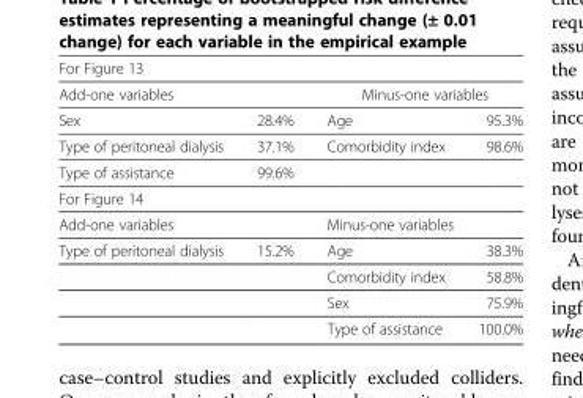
<table><tbody><tr><td colspan="4">For Figure 13</td></tr><tr><td colspan="2">Add-one variables</td><td colspan="2">Minus-one variables</td></tr><tr><td>Sex</td><td>28.4%</td><td>Age</td><td>95.3%</td></tr><tr><td>Type of peritoneal dialysis</td><td>37.1%</td><td>Comorbidity index</td><td>98.6%</td></tr><tr><td>Type of assistance</td><td>99.6%</td><td></td><td></td></tr><tr><td colspan="4">For Figure 14</td></tr><tr><td colspan="2">Add-one variables</td><td colspan="2">Minus-one variables</td></tr><tr><td rowspan="4">Type of peritoneal dialysis</td><td>15.2%</td><td>Age</td><td>38.3%</td></tr><tr><td></td><td>Comorbidity index</td><td>58.8%</td></tr><tr><td></td><td>Sex</td><td>75.9%</td></tr><tr><td></td><td>Type of assistance</td><td>100.0%</td></tr></tbody></table>